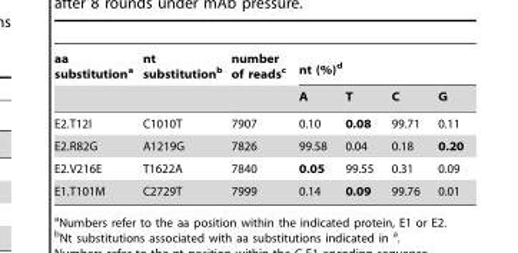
<table><thead><tr><td rowspan="2">aa substitution<sup>a</sup></td><td rowspan="2">nt substitution<sup>b</sup></td><td rowspan="2">number of reads<sup>c</sup></td><td colspan="4">nt (%)<sup>d</sup></td></tr><tr><td>A</td><td>T</td><td>C</td><td>G</td></tr></thead><tbody><tr><td>E2.T12I</td><td>C1010T</td><td>7907</td><td>0.10</td><td>0.08</td><td>99.71</td><td>0.11</td></tr><tr><td>E2.R82G</td><td>A1219G</td><td>7826</td><td>99.58</td><td>0.04</td><td>0.18</td><td>0.20</td></tr><tr><td>E2.V216E</td><td>T1622A</td><td>7840</td><td>0.05</td><td>99.55</td><td>0.31</td><td>0.09</td></tr><tr><td>E1.T101M</td><td>C2729T</td><td>7999</td><td>0.14</td><td>0.09</td><td>99.76</td><td>0.01</td></tr></tbody></table>